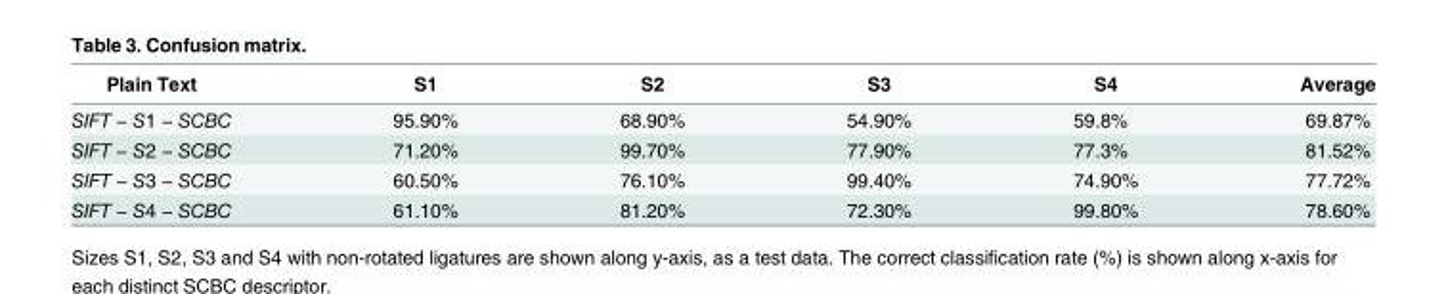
<table><thead><tr><td>Plain Text</td><td>S1</td><td>S2</td><td>S3</td><td>S4</td><td>Average</td></tr></thead><tbody><tr><td>SIFT − S1 − SCBC</td><td>95.90%</td><td>68.90%</td><td>54.90%</td><td>59.8%</td><td>69.87%</td></tr><tr><td>SIFT − S2 − SCBC</td><td>71.20%</td><td>99.70%</td><td>77.90%</td><td>77.3%</td><td>81.52%</td></tr><tr><td>SIFT − S3 − SCBC</td><td>60.50%</td><td>76.10%</td><td>99.40%</td><td>74.90%</td><td>77.72%</td></tr><tr><td>SIFT − S4 − SCBC</td><td>61.10%</td><td>81.20%</td><td>72.30%</td><td>99.80%</td><td>78.60%</td></tr></tbody></table>